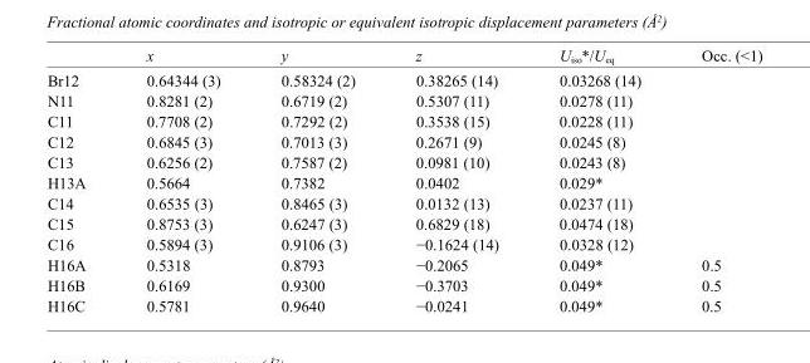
<table><thead><tr><td></td><td>x</td><td>y</td><td>z</td><td>U<sub>iso</sub>*/U<sub>eq</sub></td><td>Occ. (&lt;1)</td></tr></thead><tbody><tr><td>Br12</td><td>0.64344 (3)</td><td>0.58324 (2)</td><td>0.38265 (14)</td><td>0.03268 (14)</td><td></td></tr><tr><td>N11</td><td>0.8281 (2)</td><td>0.6719 (2)</td><td>0.5307 (11)</td><td>0.0278 (11)</td><td></td></tr><tr><td>C11</td><td>0.7708 (2)</td><td>0.7292 (2)</td><td>0.3538 (15)</td><td>0.0228 (11)</td><td></td></tr><tr><td>C12</td><td>0.6845 (3)</td><td>0.7013 (3)</td><td>0.2671 (9)</td><td>0.0245 (8)</td><td></td></tr><tr><td>C13</td><td>0.6256 (2)</td><td>0.7587 (2)</td><td>0.0981 (10)</td><td>0.0243 (8)</td><td></td></tr><tr><td>H13A</td><td>0.5664</td><td>0.7382</td><td>0.0402</td><td>0.029*</td><td></td></tr><tr><td>C14</td><td>0.6535 (3)</td><td>0.8465 (3)</td><td>0.0132 (13)</td><td>0.0237 (11)</td><td></td></tr><tr><td>C15</td><td>0.8753 (3)</td><td>0.6247 (3)</td><td>0.6829 (18)</td><td>0.0474 (18)</td><td></td></tr><tr><td>C16</td><td>0.5894 (3)</td><td>0.9106 (3)</td><td>−0.1624 (14)</td><td>0.0328 (12)</td><td></td></tr><tr><td>H16A</td><td>0.5318</td><td>0.8793</td><td>−0.2065</td><td>0.049*</td><td>0.5</td></tr><tr><td>H16B</td><td>0.6169</td><td>0.9300</td><td>−0.3703</td><td>0.049*</td><td>0.5</td></tr><tr><td>H16C</td><td>0.5781</td><td>0.9640</td><td>−0.0241</td><td>0.049*</td><td>0.5</td></tr></tbody></table>